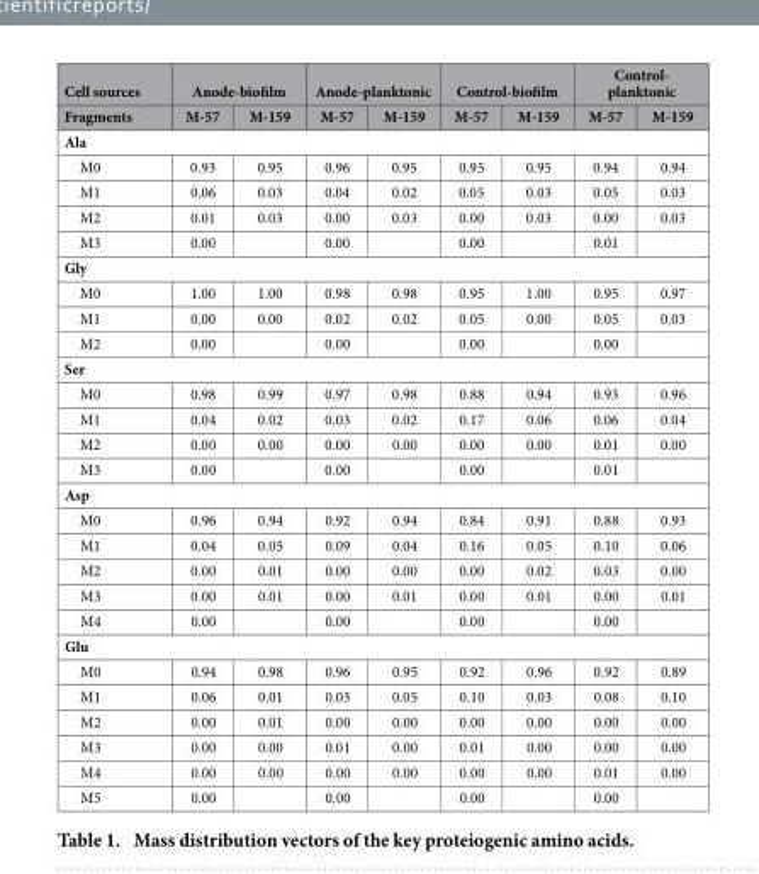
<table><thead><tr><td rowspan="2">Cell sources Fragments</td><td colspan="2">Anode-biofilm</td><td colspan="2">Anode-planktonic</td><td colspan="2">Control-biofilm</td><td colspan="2">Control- planktonic</td></tr><tr><td>M-57</td><td>M-159</td><td>M-57</td><td>M-159</td><td>M-57</td><td>M-159</td><td>M-57</td><td>M-159</td></tr></thead><tbody><tr><td colspan="9">Ala</td></tr><tr><td>M0</td><td>0.93</td><td>0.95</td><td>0.96</td><td>0.95</td><td>0.95</td><td>0.95</td><td>0.94</td><td>0.94</td></tr><tr><td>M1</td><td>0.06</td><td>0.03</td><td>0.04</td><td>0.02</td><td>0.05</td><td>0.03</td><td>0.05</td><td>0.03</td></tr><tr><td>M2</td><td>0.01</td><td>0.03</td><td>0.00</td><td>0.03</td><td>0.00</td><td>0.03</td><td>0.00</td><td>0.03</td></tr><tr><td>M3</td><td>0.00</td><td></td><td>0.00</td><td></td><td>0.00</td><td></td><td>0.01</td><td></td></tr><tr><td colspan="9">Gly</td></tr><tr><td>M0</td><td>1.00</td><td>1.00</td><td>0.98</td><td>0.98</td><td>0.95</td><td>1.00</td><td>0.95</td><td>0.97</td></tr><tr><td>M1</td><td>0.00</td><td>0.00</td><td>0.02</td><td>0.02</td><td>0.05</td><td>0.00</td><td>0.05</td><td>0.03</td></tr><tr><td>M2</td><td>0.00</td><td></td><td>0.00</td><td></td><td>0.00</td><td></td><td>0.00</td><td></td></tr><tr><td colspan="9">Ser</td></tr><tr><td>M0</td><td>0.98</td><td>0.99</td><td>0.97</td><td>0.98</td><td>0.88</td><td>0.94</td><td>0.93</td><td>0.96</td></tr><tr><td>M1</td><td>0.04</td><td>0.02</td><td>0.03</td><td>0.02</td><td>0.17</td><td>0.06</td><td>0.06</td><td>0.04</td></tr><tr><td>M2</td><td>0.00</td><td>0.00</td><td>0.00</td><td>0.00</td><td>0.00</td><td>0.00</td><td>0.01</td><td>0.00</td></tr><tr><td>M3</td><td>0.00</td><td></td><td>0.00</td><td></td><td>0.00</td><td></td><td>0.01</td><td></td></tr><tr><td colspan="9">Asp</td></tr><tr><td>M0</td><td>0.96</td><td>0.94</td><td>0.92</td><td>0.94</td><td>0.84</td><td>0.91</td><td>0.88</td><td>0.93</td></tr><tr><td>M1</td><td>0.04</td><td>0.05</td><td>0.09</td><td>0.04</td><td>0.16</td><td>0.05</td><td>0.10</td><td>0.06</td></tr><tr><td>M2</td><td>0.00</td><td>0.01</td><td>0.00</td><td>0.00</td><td>0.00</td><td>0.02</td><td>0.03</td><td>0.00</td></tr><tr><td>M3</td><td>0.00</td><td>0.01</td><td>0.00</td><td>0.01</td><td>0.00</td><td>0.01</td><td>0.00</td><td>0.01</td></tr><tr><td>M4</td><td>0.00</td><td></td><td>0.00</td><td></td><td>0.00</td><td></td><td>0.00</td><td></td></tr><tr><td colspan="9">Glu</td></tr><tr><td>M0</td><td>0.94</td><td>0.98</td><td>0.96</td><td>0.95</td><td>0.92</td><td>0.96</td><td>0.92</td><td>0.89</td></tr><tr><td>M1</td><td>0.06</td><td>0.01</td><td>0.03</td><td>0.05</td><td>0.10</td><td>0.03</td><td>0.08</td><td>0.10</td></tr><tr><td>M2</td><td>0.00</td><td>0.01</td><td>0.00</td><td>0.00</td><td>0.00</td><td>0.00</td><td>0.00</td><td>0.00</td></tr><tr><td>M3</td><td>0.00</td><td>0.00</td><td>0.01</td><td>0.00</td><td>0.01</td><td>0.00</td><td>0.00</td><td>0.00</td></tr><tr><td>M4</td><td>0.00</td><td>0.00</td><td>0.00</td><td>0.00</td><td>0.00</td><td>0.00</td><td>0.01</td><td>0.00</td></tr><tr><td>M5</td><td>0.00</td><td></td><td>0.00</td><td></td><td>0.00</td><td></td><td>0.00</td><td></td></tr></tbody></table>